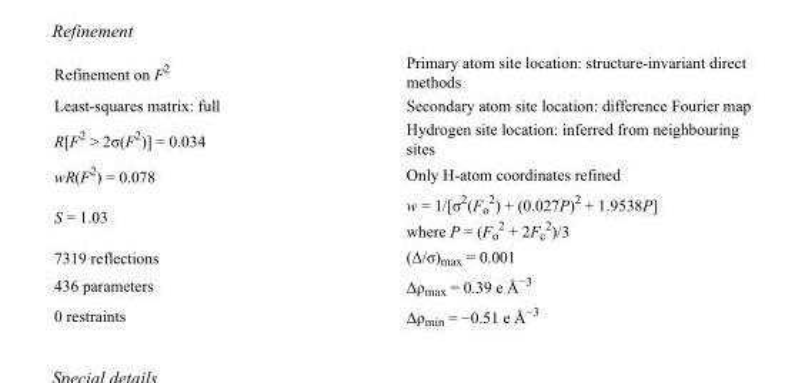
<table><tbody><tr><td>Refinement on F<sup>2</sup></td><td>Primary atom site location: structure-invariant direct methods</td></tr><tr><td>Least-squares matrix: full</td><td>Secondary atom site location: difference Fourier map</td></tr><tr><td>R[F<sup>2</sup> &gt; 2σ(F<sup>2</sup>)] = 0.034</td><td>Hydrogen site location: inferred from neighbouring sites</td></tr><tr><td>wR(F<sup>2</sup>) = 0.078</td><td>Only H-atom coordinates refined</td></tr><tr><td>S = 1.03</td><td>w = 1/[σ<sup>2</sup>(F<sub>o</sub> <sup>2</sup>) + (0.027P)<sup>2</sup> + 1.9538P] where P = (F<sub>o</sub> <sup>2</sup> + 2F<sub>c</sub> <sup>2</sup>)/3</td></tr><tr><td>7319 reflections</td><td>(Δ/σ)<sub>max</sub> = 0.001</td></tr><tr><td>436 parameters</td><td>Δρ<sub>max</sub> = 0.39 e Å<sup>−3</sup></td></tr><tr><td>0 restraints</td><td>Δρ<sub>min</sub> = −0.51 e Å<sup>−3</sup></td></tr></tbody></table>